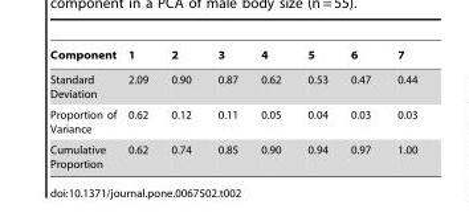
<table><thead><tr><td>Component</td><td>1</td><td>2</td><td>3</td><td>4</td><td>5</td><td>6</td><td>7</td></tr></thead><tbody><tr><td>Standard Deviation</td><td>2.09</td><td>0.90</td><td>0.87</td><td>0.62</td><td>0.53</td><td>0.47</td><td>0.44</td></tr><tr><td>Proportion of Variance</td><td>0.62</td><td>0.12</td><td>0.11</td><td>0.05</td><td>0.04</td><td>0.03</td><td>0.03</td></tr><tr><td>Cumulative Proportion</td><td>0.62</td><td>0.74</td><td>0.85</td><td>0.90</td><td>0.94</td><td>0.97</td><td>1.00</td></tr></tbody></table>